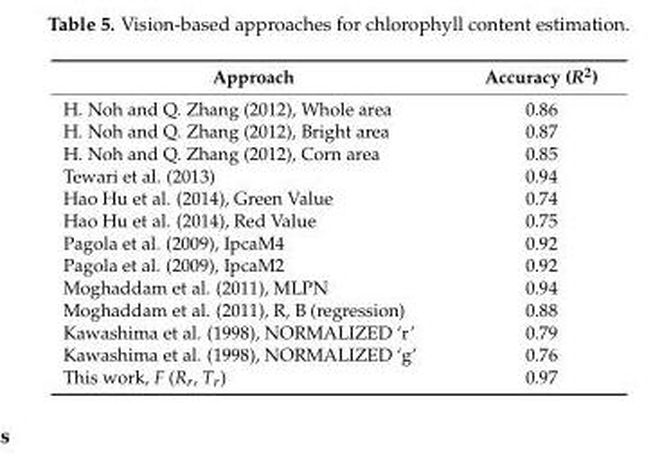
<table><thead><tr><td>Approach</td><td>Accuracy (R<sup>2</sup>)</td></tr></thead><tbody><tr><td>H. Noh and Q. Zhang (2012), Whole area</td><td>0.86</td></tr><tr><td>H. Noh and Q. Zhang (2012), Bright area</td><td>0.87</td></tr><tr><td>H. Noh and Q. Zhang (2012), Corn area</td><td>0.85</td></tr><tr><td>Tewari et al. (2013)</td><td>0.94</td></tr><tr><td>Hao Hu et al. (2014), Green Value</td><td>0.74</td></tr><tr><td>Hao Hu et al. (2014), Red Value</td><td>0.75</td></tr><tr><td>Pagola et al. (2009), IpcaM4</td><td>0.92</td></tr><tr><td>Pagola et al. (2009), IpcaM2</td><td>0.92</td></tr><tr><td>Moghaddam et al. (2011), MLPN</td><td>0.94</td></tr><tr><td>Moghaddam et al. (2011), R, B (regression)</td><td>0.88</td></tr><tr><td>Kawashima et al. (1998), NORMALIZED ‘r’</td><td>0.79</td></tr><tr><td>Kawashima et al. (1998), NORMALIZED ‘g’</td><td>0.76</td></tr><tr><td>This work, F (R<sub>r</sub>, T<sub>r</sub>)</td><td>0.97</td></tr></tbody></table>